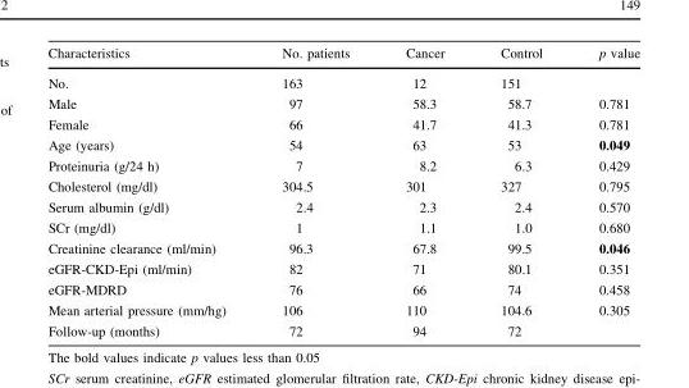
<table><thead><tr><td>Characteristics</td><td>No. patients</td><td>Cancer</td><td>Control</td><td>p value</td></tr></thead><tbody><tr><td>No.</td><td>163</td><td>12</td><td>151</td><td></td></tr><tr><td>Male</td><td>97</td><td>58.3</td><td>58.7</td><td>0.781</td></tr><tr><td>Female</td><td>66</td><td>41.7</td><td>41.3</td><td>0.781</td></tr><tr><td>Age (years)</td><td>54</td><td>63</td><td>53</td><td>0.049</td></tr><tr><td>Proteinuria (g/24 h)</td><td>7</td><td>8.2</td><td>6.3</td><td>0.429</td></tr><tr><td>Cholesterol (mg/dl)</td><td>304.5</td><td>301</td><td>327</td><td>0.795</td></tr><tr><td>Serum albumin (g/dl)</td><td>2.4</td><td>2.3</td><td>2.4</td><td>0.570</td></tr><tr><td>SCr (mg/dl)</td><td>1</td><td>1.1</td><td>1.0</td><td>0.680</td></tr><tr><td>Creatinine clearance (ml/min)</td><td>96.3</td><td>67.8</td><td>99.5</td><td>0.046</td></tr><tr><td>eGFR-CKD-Epi (ml/min)</td><td>82</td><td>71</td><td>80.1</td><td>0.351</td></tr><tr><td>eGFR-MDRD</td><td>76</td><td>66</td><td>74</td><td>0.458</td></tr><tr><td>Mean arterial pressure (mm/hg)</td><td>106</td><td>110</td><td>104.6</td><td>0.305</td></tr><tr><td>Follow-up (months)</td><td>72</td><td>94</td><td>72</td><td></td></tr></tbody></table>